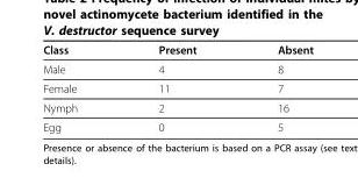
<table><thead><tr><td>Class</td><td>Present</td><td>Absent</td></tr></thead><tbody><tr><td>Male</td><td>4</td><td>8</td></tr><tr><td>Female</td><td>11</td><td>7</td></tr><tr><td>Nymph</td><td>2</td><td>16</td></tr><tr><td>Egg</td><td>0</td><td>5</td></tr></tbody></table>